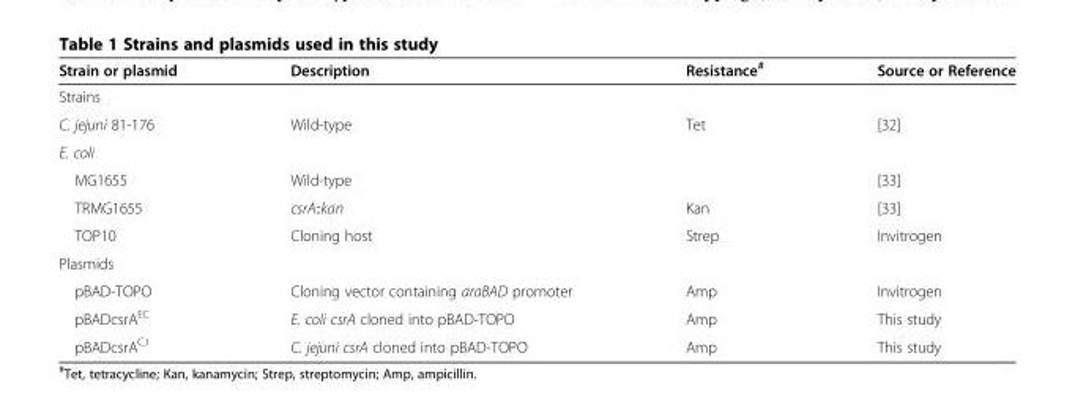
<table><thead><tr><td>Strain or plasmid</td><td>Description</td><td>Resistance<sup>#</sup></td><td>Source or Reference</td></tr></thead><tbody><tr><td colspan="4">Strains</td></tr><tr><td>C. jejuni 81-176</td><td>Wild-type</td><td>Tet</td><td>[32]</td></tr><tr><td colspan="4">E. coli</td></tr><tr><td>MG1655</td><td>Wild-type</td><td></td><td>[33]</td></tr><tr><td>TRMG1655</td><td>csrA::kan</td><td>Kan</td><td>[33]</td></tr><tr><td>TOP10</td><td>Cloning host</td><td>Strep</td><td>Invitrogen</td></tr><tr><td colspan="4">Plasmids</td></tr><tr><td>pBAD-TOPO</td><td>Cloning vector containing araBAD promoter</td><td>Amp</td><td>Invitrogen</td></tr><tr><td>pBADcsrA<sup>EC</sup></td><td>E. coli csrA cloned into pBAD-TOPO</td><td>Amp</td><td>This study</td></tr><tr><td>pBADcsrA<sup>CJ</sup></td><td>C. jejuni csrA cloned into pBAD-TOPO</td><td>Amp</td><td>This study</td></tr></tbody></table>